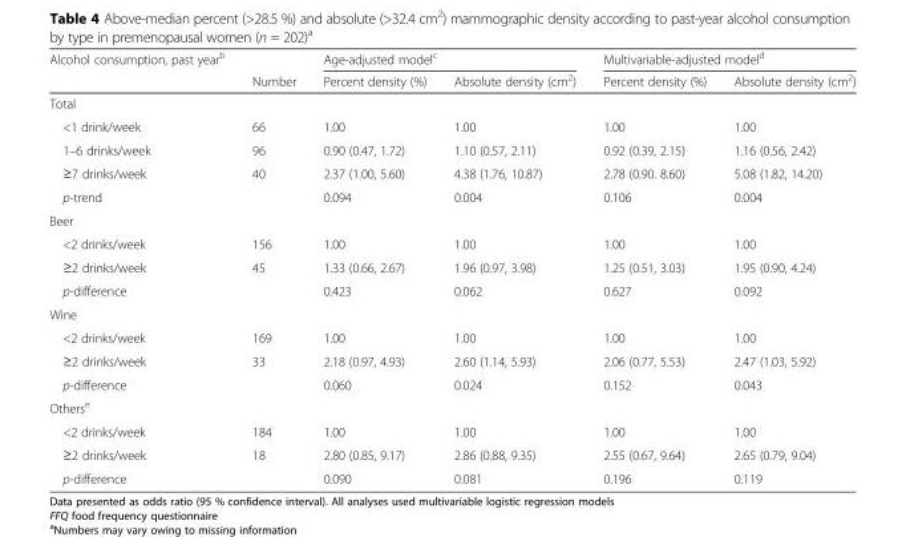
<table><thead><tr><td rowspan="2">Alcohol consumption, past year<sup>b</sup></td><td rowspan="2">Number</td><td colspan="2">Age-adjusted model<sup>c</sup></td><td colspan="2">Multivariable-adjusted model<sup>d</sup></td></tr><tr><td>Percent density (%)</td><td>Absolute density (cm<sup>2</sup>)</td><td>Percent density (%)</td><td>Absolute density (cm<sup>2</sup>)</td></tr></thead><tbody><tr><td colspan="6">Total</td></tr><tr><td>&lt;1 drink/week</td><td>66</td><td>1.00</td><td>1.00</td><td>1.00</td><td>1.00</td></tr><tr><td>1–6 drinks/week</td><td>96</td><td>0.90 (0.47, 1.72)</td><td>1.10 (0.57, 2.11)</td><td>0.92 (0.39, 2.15)</td><td>1.16 (0.56, 2.42)</td></tr><tr><td>≥7 drinks/week</td><td>40</td><td>2.37 (1.00, 5.60)</td><td>4.38 (1.76, 10.87)</td><td>2.78 (0.90. 8.60)</td><td>5.08 (1.82, 14.20)</td></tr><tr><td>p-trend</td><td></td><td>0.094</td><td>0.004</td><td>0.106</td><td>0.004</td></tr><tr><td colspan="6">Beer</td></tr><tr><td>&lt;2 drinks/week</td><td>156</td><td>1.00</td><td>1.00</td><td>1.00</td><td>1.00</td></tr><tr><td>≥2 drinks/week</td><td>45</td><td>1.33 (0.66, 2.67)</td><td>1.96 (0.97, 3.98)</td><td>1.25 (0.51, 3.03)</td><td>1.95 (0.90, 4.24)</td></tr><tr><td>p-difference</td><td></td><td>0.423</td><td>0.062</td><td>0.627</td><td>0.092</td></tr><tr><td colspan="6">Wine</td></tr><tr><td>&lt;2 drinks/week</td><td>169</td><td>1.00</td><td>1.00</td><td>1.00</td><td>1.00</td></tr><tr><td>≥2 drinks/week</td><td>33</td><td>2.18 (0.97, 4.93)</td><td>2.60 (1.14, 5.93)</td><td>2.06 (0.77, 5.53)</td><td>2.47 (1.03, 5.92)</td></tr><tr><td>p-difference</td><td></td><td>0.060</td><td>0.024</td><td>0.152</td><td>0.043</td></tr><tr><td colspan="6">Others<sup>e</sup></td></tr><tr><td>&lt;2 drinks/week</td><td>184</td><td>1.00</td><td>1.00</td><td>1.00</td><td>1.00</td></tr><tr><td>≥2 drinks/week</td><td>18</td><td>2.80 (0.85, 9.17)</td><td>2.86 (0.88, 9.35)</td><td>2.55 (0.67, 9.64)</td><td>2.65 (0.79, 9.04)</td></tr><tr><td>p-difference</td><td></td><td>0.090</td><td>0.081</td><td>0.196</td><td>0.119</td></tr></tbody></table>